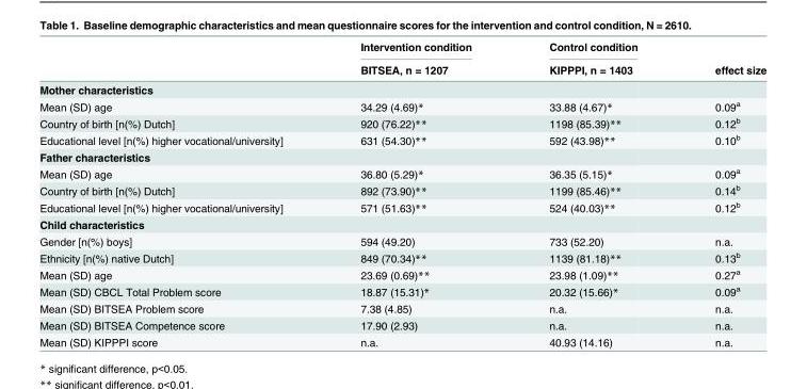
<table><thead><tr><td rowspan="2"></td><td rowspan="2">Intervention condition BITSEA, n = 1207</td><td rowspan="2">Control condition KIPPPI, n = 1403</td><td rowspan="2">effect size</td></tr><tr></tr></thead><tbody><tr><td colspan="4">Mother characteristics</td></tr><tr><td>Mean (SD) age</td><td>34.29 (4.69)*</td><td>33.88 (4.67)*</td><td>0.09<sup>a</sup></td></tr><tr><td>Country of birth [n(%) Dutch]</td><td>920 (76.22)**</td><td>1198 (85.39)**</td><td>0.12<sup>b</sup></td></tr><tr><td>Educational level [n(%) higher vocational/university]</td><td>631 (54.30)**</td><td>592 (43.98)**</td><td>0.10<sup>b</sup></td></tr><tr><td colspan="4">Father characteristics</td></tr><tr><td>Mean (SD) age</td><td>36.80 (5.29)*</td><td>36.35 (5.15)*</td><td>0.09<sup>a</sup></td></tr><tr><td>Country of birth [n(%) Dutch]</td><td>892 (73.90)**</td><td>1199 (85.46)**</td><td>0.14<sup>b</sup></td></tr><tr><td>Educational level [n(%) higher vocational/university]</td><td>571 (51.63)**</td><td>524 (40.03)**</td><td>0.12<sup>b</sup></td></tr><tr><td colspan="4">Child characteristics</td></tr><tr><td>Gender [n(%) boys]</td><td>594 (49.20)</td><td>733 (52.20)</td><td>n.a.</td></tr><tr><td>Ethnicity [n(%) native Dutch]</td><td>849 (70.34)**</td><td>1139 (81.18)**</td><td>0.13<sup>b</sup></td></tr><tr><td>Mean (SD) age</td><td>23.69 (0.69)**</td><td>23.98 (1.09)**</td><td>0.27<sup>a</sup></td></tr><tr><td>Mean (SD) CBCL Total Problem score</td><td>18.87 (15.31)*</td><td>20.32 (15.66)*</td><td>0.09<sup>a</sup></td></tr><tr><td>Mean (SD) BITSEA Problem score</td><td>7.38 (4.85)</td><td>n.a.</td><td>n.a.</td></tr><tr><td>Mean (SD) BITSEA Competence score</td><td>17.90 (2.93)</td><td>n.a.</td><td>n.a.</td></tr><tr><td>Mean (SD) KIPPPI score</td><td>n.a.</td><td>40.93 (14.16)</td><td>n.a.</td></tr></tbody></table>